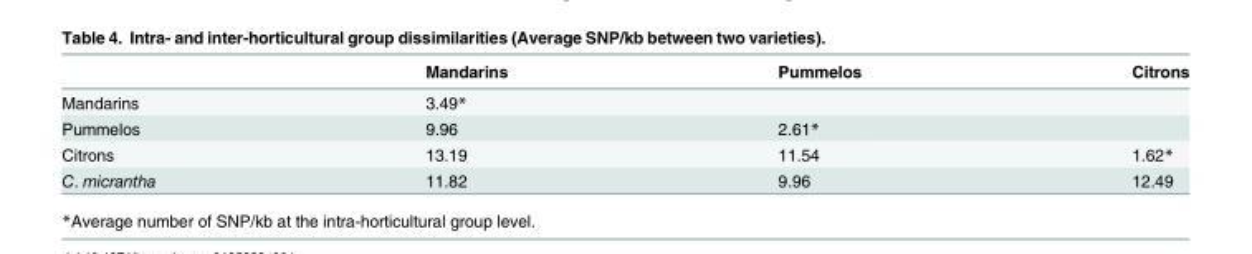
<table><thead><tr><td></td><td>Mandarins</td><td>Pummelos</td><td>Citrons</td></tr></thead><tbody><tr><td>Mandarins</td><td>3.49*</td><td></td><td></td></tr><tr><td>Pummelos</td><td>9.96</td><td>2.61*</td><td></td></tr><tr><td>Citrons</td><td>13.19</td><td>11.54</td><td>1.62*</td></tr><tr><td>C. micrantha</td><td>11.82</td><td>9.96</td><td>12.49</td></tr></tbody></table>